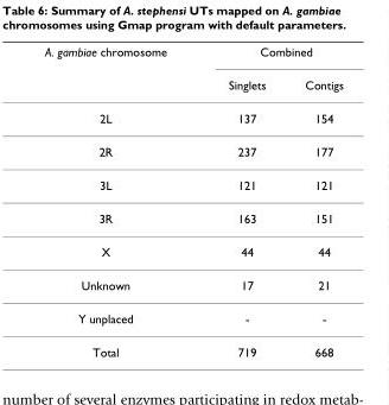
<table><thead><tr><td rowspan="2">A. gambiae chromosome</td><td colspan="2">Combined</td></tr><tr><td>Singlets</td><td>Contigs</td></tr></thead><tbody><tr><td>2L</td><td>137</td><td>154</td></tr><tr><td>2R</td><td>237</td><td>177</td></tr><tr><td>3L</td><td>121</td><td>121</td></tr><tr><td>3R</td><td>163</td><td>151</td></tr><tr><td>X</td><td>44</td><td>44</td></tr><tr><td>Unknown</td><td>17</td><td>21</td></tr><tr><td>Y unplaced</td><td>-</td><td>-</td></tr><tr><td>Total</td><td>719</td><td>668</td></tr></tbody></table>